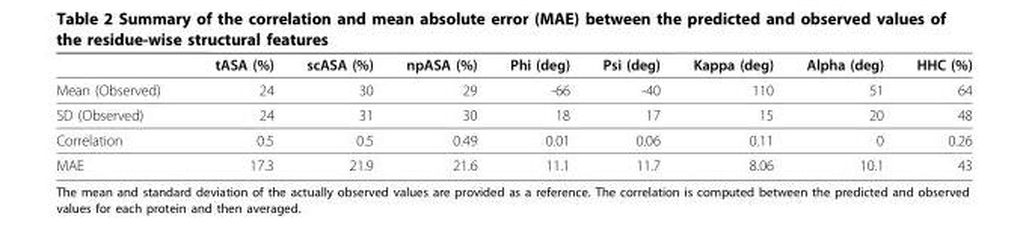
<table><thead><tr><td></td><td>tASA (%)</td><td>scASA (%)</td><td>npASA (%)</td><td>Phi (deg)</td><td>Psi (deg)</td><td>Kappa (deg)</td><td>Alpha (deg)</td><td>HHC (%)</td></tr></thead><tbody><tr><td>Mean (Observed)</td><td>24</td><td>30</td><td>29</td><td>-66</td><td>-40</td><td>110</td><td>51</td><td>64</td></tr><tr><td>SD (Observed)</td><td>24</td><td>31</td><td>30</td><td>18</td><td>17</td><td>15</td><td>20</td><td>48</td></tr><tr><td>Correlation</td><td>0.5</td><td>0.5</td><td>0.49</td><td>0.01</td><td>0.06</td><td>0.11</td><td>0</td><td>0.26</td></tr><tr><td>MAE</td><td>17.3</td><td>21.9</td><td>21.6</td><td>11.1</td><td>11.7</td><td>8.06</td><td>10.1</td><td>43</td></tr></tbody></table>